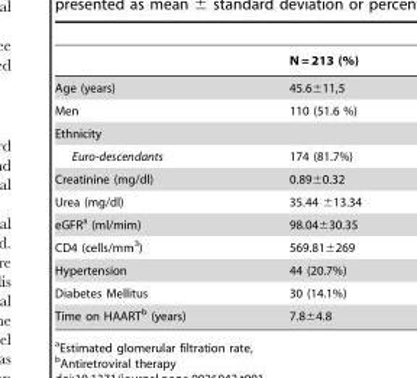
<table><thead><tr><td></td><td>N = 213 (%)</td></tr></thead><tbody><tr><td>Age (years)</td><td>45.6±11,5</td></tr><tr><td>Men</td><td>110 (51.6 %)</td></tr><tr><td colspan="2">Ethnicity</td></tr><tr><td>Euro-descendants</td><td>174 (81.7%)</td></tr><tr><td>Creatinine (mg/dl)</td><td>0.89±0.32</td></tr><tr><td>Urea (mg/dl)</td><td>35.44 ±13.34</td></tr><tr><td>eGFR<sup>a</sup> (ml/mim)</td><td>98.04±30.35</td></tr><tr><td>CD4 (cells/mm<sup>3</sup>)</td><td>569.81±269</td></tr><tr><td>Hypertension</td><td>44 (20.7%)</td></tr><tr><td>Diabetes Mellitus</td><td>30 (14.1%)</td></tr><tr><td>Time on HAART<sup>b</sup> (years)</td><td>7.8±4.8</td></tr></tbody></table>